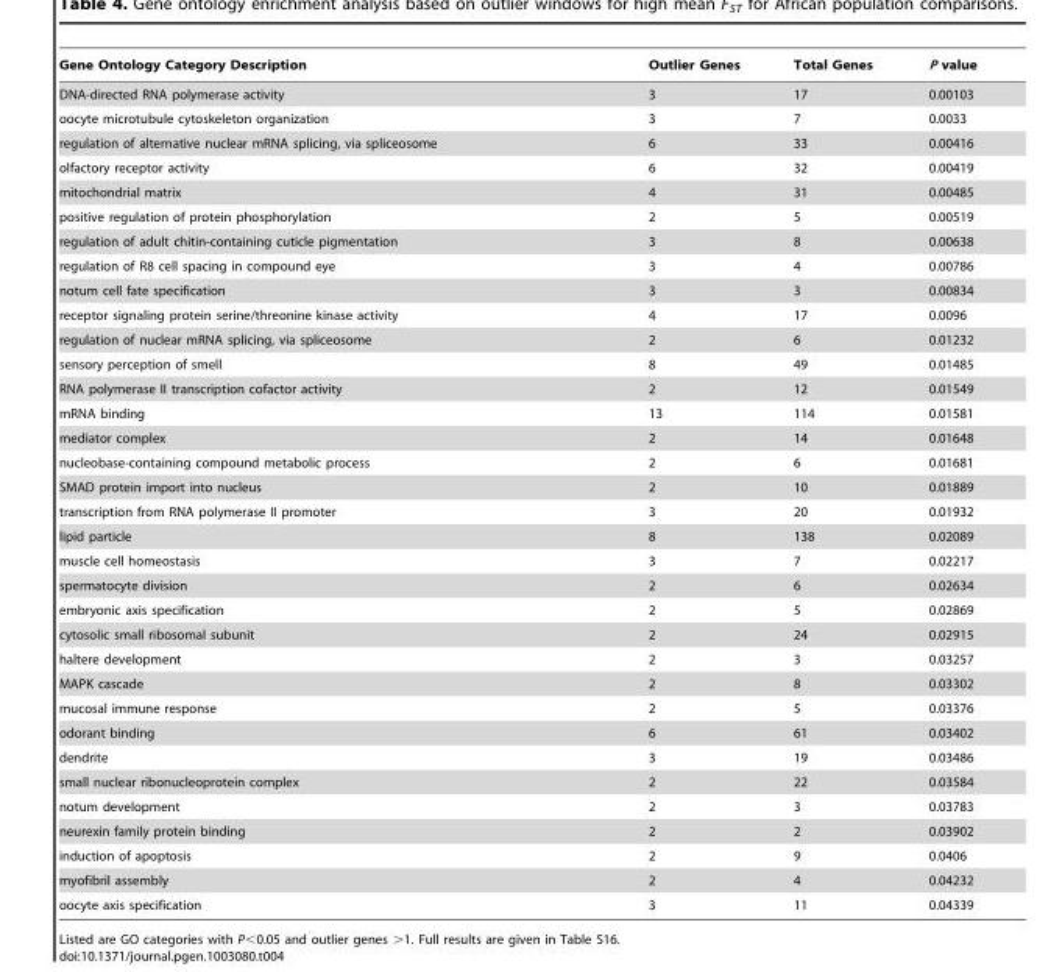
<table><thead><tr><td>Gene Ontology Category Description</td><td>Outlier Genes</td><td>Total Genes</td><td>P value</td></tr></thead><tbody><tr><td>DNA-directed RNA polymerase activity</td><td>3</td><td>17</td><td>0.00103</td></tr><tr><td>oocyte microtubule cytoskeleton organization</td><td>3</td><td>7</td><td>0.0033</td></tr><tr><td>regulation of alternative nuclear mRNA splicing, via spliceosome</td><td>6</td><td>33</td><td>0.00416</td></tr><tr><td>olfactory receptor activity</td><td>6</td><td>32</td><td>0.00419</td></tr><tr><td>mitochondrial matrix</td><td>4</td><td>31</td><td>0.00485</td></tr><tr><td>positive regulation of protein phosphorylation</td><td>2</td><td>5</td><td>0.00519</td></tr><tr><td>regulation of adult chitin-containing cuticle pigmentation</td><td>3</td><td>8</td><td>0.00638</td></tr><tr><td>regulation of R8 cell spacing in compound eye</td><td>3</td><td>4</td><td>0.00786</td></tr><tr><td>notum cell fate specification</td><td>3</td><td>3</td><td>0.00834</td></tr><tr><td>receptor signaling protein serine/threonine kinase activity</td><td>4</td><td>17</td><td>0.0096</td></tr><tr><td>regulation of nuclear mRNA splicing, via spliceosome</td><td>2</td><td>6</td><td>0.01232</td></tr><tr><td>sensory perception of smell</td><td>8</td><td>49</td><td>0.01485</td></tr><tr><td>RNA polymerase II transcription cofactor activity</td><td>2</td><td>12</td><td>0.01549</td></tr><tr><td>mRNA binding</td><td>13</td><td>114</td><td>0.01581</td></tr><tr><td>mediator complex</td><td>2</td><td>14</td><td>0.01648</td></tr><tr><td>nucleobase-containing compound metabolic process</td><td>2</td><td>6</td><td>0.01681</td></tr><tr><td>SMAD protein import into nucleus</td><td>2</td><td>10</td><td>0.01889</td></tr><tr><td>transcription from RNA polymerase II promoter</td><td>3</td><td>20</td><td>0.01932</td></tr><tr><td>lipid particle</td><td>8</td><td>138</td><td>0.02089</td></tr><tr><td>muscle cell homeostasis</td><td>3</td><td>7</td><td>0.02217</td></tr><tr><td>spermatocyte division</td><td>2</td><td>6</td><td>0.02634</td></tr><tr><td>embryonic axis specification</td><td>2</td><td>5</td><td>0.02869</td></tr><tr><td>cytosolic small ribosomal subunit</td><td>2</td><td>24</td><td>0.02915</td></tr><tr><td>haltere development</td><td>2</td><td>3</td><td>0.03257</td></tr><tr><td>MAPK cascade</td><td>2</td><td>8</td><td>0.03302</td></tr><tr><td>mucosal immune response</td><td>2</td><td>5</td><td>0.03376</td></tr><tr><td>odorant binding</td><td>6</td><td>61</td><td>0.03402</td></tr><tr><td>dendrite</td><td>3</td><td>19</td><td>0.03486</td></tr><tr><td>small nuclear ribonucleoprotein complex</td><td>2</td><td>22</td><td>0.03584</td></tr><tr><td>notum development</td><td>2</td><td>3</td><td>0.03783</td></tr><tr><td>neurexin family protein binding</td><td>2</td><td>2</td><td>0.03902</td></tr><tr><td>induction of apoptosis</td><td>2</td><td>9</td><td>0.0406</td></tr><tr><td>myofibril assembly</td><td>2</td><td>4</td><td>0.04232</td></tr><tr><td>oocyte axis specification</td><td>3</td><td>11</td><td>0.04339</td></tr></tbody></table>